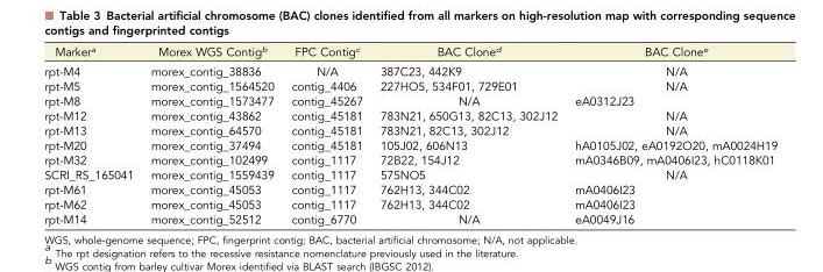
<table><thead><tr><td>Marker<sup>a</sup></td><td>Morex WGS Contig<sup>b</sup></td><td>FPC Contig<sup>c</sup></td><td>BAC Clone<sup>d</sup></td><td>BAC Clone<sup>e</sup></td></tr></thead><tbody><tr><td>rpt-M4</td><td>morex_contig_38836</td><td>N/A</td><td>387C23, 442K9</td><td>N/A</td></tr><tr><td>rpt-M5</td><td>morex_contig_1564520</td><td>contig_4406</td><td>227HO5, 534F01, 729E01</td><td>N/A</td></tr><tr><td>rpt-M8</td><td>morex_contig_1573477</td><td>contig_45267</td><td>N/A</td><td>eA0312J23</td></tr><tr><td>rpt-M12</td><td>morex_contig_43862</td><td>contig_45181</td><td>783N21, 650G13, 82C13, 302J12</td><td>N/A</td></tr><tr><td>rpt-M13</td><td>morex_contig_64570</td><td>contig_45181</td><td>783N21, 82C13, 302J12</td><td>N/A</td></tr><tr><td>rpt-M20</td><td>morex_contig_37494</td><td>contig_45181</td><td>105J02, 606N13</td><td>hA0105J02, eA0192O20, mA0024H19</td></tr><tr><td>rpt-M32</td><td>morex_contig_102499</td><td>contig_1117</td><td>72B22, 154J12</td><td>mA0346B09, mA0406I23, hC0118K01</td></tr><tr><td>SCRI_RS_165041</td><td>morex_contig_1559439</td><td>contig_1117</td><td>575NO5</td><td>N/A</td></tr><tr><td>rpt-M61</td><td>morex_contig_45053</td><td>contig_1117</td><td>762H13, 344C02</td><td>mA0406I23</td></tr><tr><td>rpt-M62</td><td>morex_contig_45053</td><td>contig_1117</td><td>762H13, 344C02</td><td>mA0406I23</td></tr><tr><td>rpt-M14</td><td>morex_contig_52512</td><td>contig_6770</td><td>N/A</td><td>eA0049J16</td></tr></tbody></table>